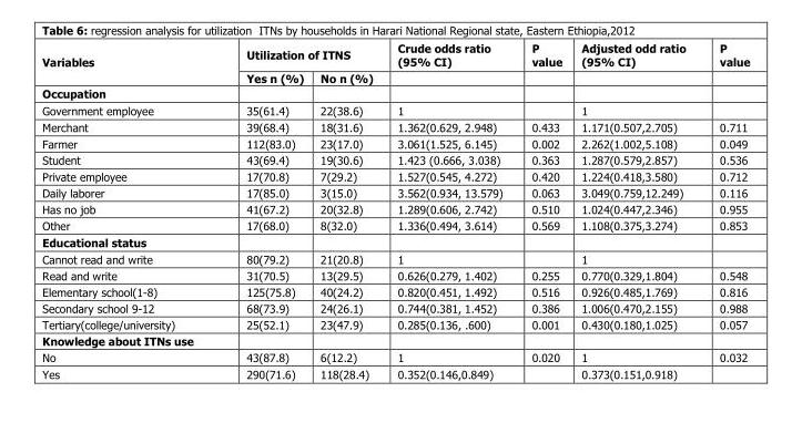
<table><thead><tr><td rowspan="2">Variables</td><td colspan="2">Utilization of ITNS</td><td rowspan="2">Crude odds ratio (95% CI)</td><td rowspan="2">P value</td><td rowspan="2">Adjusted odd ratio (95% CI)</td><td rowspan="2">P value</td></tr><tr><td>Yes n (%)</td><td>No n (%)</td></tr></thead><tbody><tr><td colspan="7">Occupation</td></tr><tr><td>Government employee</td><td>35(61.4)</td><td>22(38.6)</td><td>1</td><td></td><td>1</td><td></td></tr><tr><td>Merchant</td><td>39(68.4)</td><td>18(31.6)</td><td>1.362(0.629, 2.948)</td><td>0.433</td><td>1.171(0.507,2.705)</td><td>0.711</td></tr><tr><td>Farmer</td><td>112(83.0)</td><td>23(17.0)</td><td>3.061(1.525, 6.145)</td><td>0.002</td><td>2.262(1.002,5.108)</td><td>0.049</td></tr><tr><td>Student</td><td>43(69.4)</td><td>19(30.6)</td><td>1.423 (0.666, 3.038)</td><td>0.363</td><td>1.287(0.579,2.857)</td><td>0.536</td></tr><tr><td>Private employee</td><td>17(70.8)</td><td>7(29.2)</td><td>1.527(0.545, 4.272)</td><td>0.420</td><td>1.224(0.418,3.580)</td><td>0.712</td></tr><tr><td>Daily laborer</td><td>17(85.0)</td><td>3(15.0)</td><td>3.562(0.934, 13.579)</td><td>0.063</td><td>3.049(0.759,12.249)</td><td>0.116</td></tr><tr><td>Has no job</td><td>41(67.2)</td><td>20(32.8)</td><td>1.289(0.606, 2.742)</td><td>0.510</td><td>1.024(0.447,2.346)</td><td>0.955</td></tr><tr><td>Other</td><td>17(68.0)</td><td>8(32.0)</td><td>1.336(0.494, 3.614)</td><td>0.569</td><td>1.108(0.375,3.274)</td><td>0.853</td></tr><tr><td colspan="7">Educational status</td></tr><tr><td>Cannot read and write</td><td>80(79.2)</td><td>21(20.8)</td><td>1</td><td></td><td>1</td><td></td></tr><tr><td>Read and write</td><td>31(70.5)</td><td>13(29.5)</td><td>0.626(0.279, 1.402)</td><td>0.255</td><td>0.770(0.329,1.804)</td><td>0.548</td></tr><tr><td>Elementary school(1-8)</td><td>125(75.8)</td><td>40(24.2)</td><td>0.820(0.451, 1.492)</td><td>0.516</td><td>0.926(0.485,1.769)</td><td>0.816</td></tr><tr><td>Secondary school 9-12</td><td>68(73.9)</td><td>24(26.1)</td><td>0.744(0.381, 1.452)</td><td>0.386</td><td>1.006(0.470,2.155)</td><td>0.988</td></tr><tr><td>Tertiary(college/university)</td><td>25(52.1)</td><td>23(47.9)</td><td>0.285(0.136, .600)</td><td>0.001</td><td>0.430(0.180,1.025)</td><td>0.057</td></tr><tr><td colspan="7">Knowledge about ITNs use</td></tr><tr><td>No</td><td>43(87.8)</td><td>6(12.2)</td><td>1</td><td>0.020</td><td>1</td><td>0.032</td></tr><tr><td>Yes</td><td>290(71.6)</td><td>118(28.4)</td><td>0.352(0.146,0.849)</td><td></td><td>0.373(0.151,0.918)</td><td></td></tr></tbody></table>